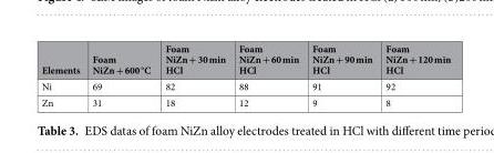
<table><thead><tr><td>Elements</td><td>Foam NiZn + 600 °C</td><td>Foam NiZn + 30 min HCl</td><td>Foam NiZn + 60 min HCl</td><td>Foam NiZn + 90 min HCl</td><td>Foam NiZn + 120 min HCl</td></tr></thead><tbody><tr><td>Ni</td><td>69</td><td>82</td><td>88</td><td>91</td><td>92</td></tr><tr><td>Zn</td><td>31</td><td>18</td><td>12</td><td>9</td><td>8</td></tr></tbody></table>